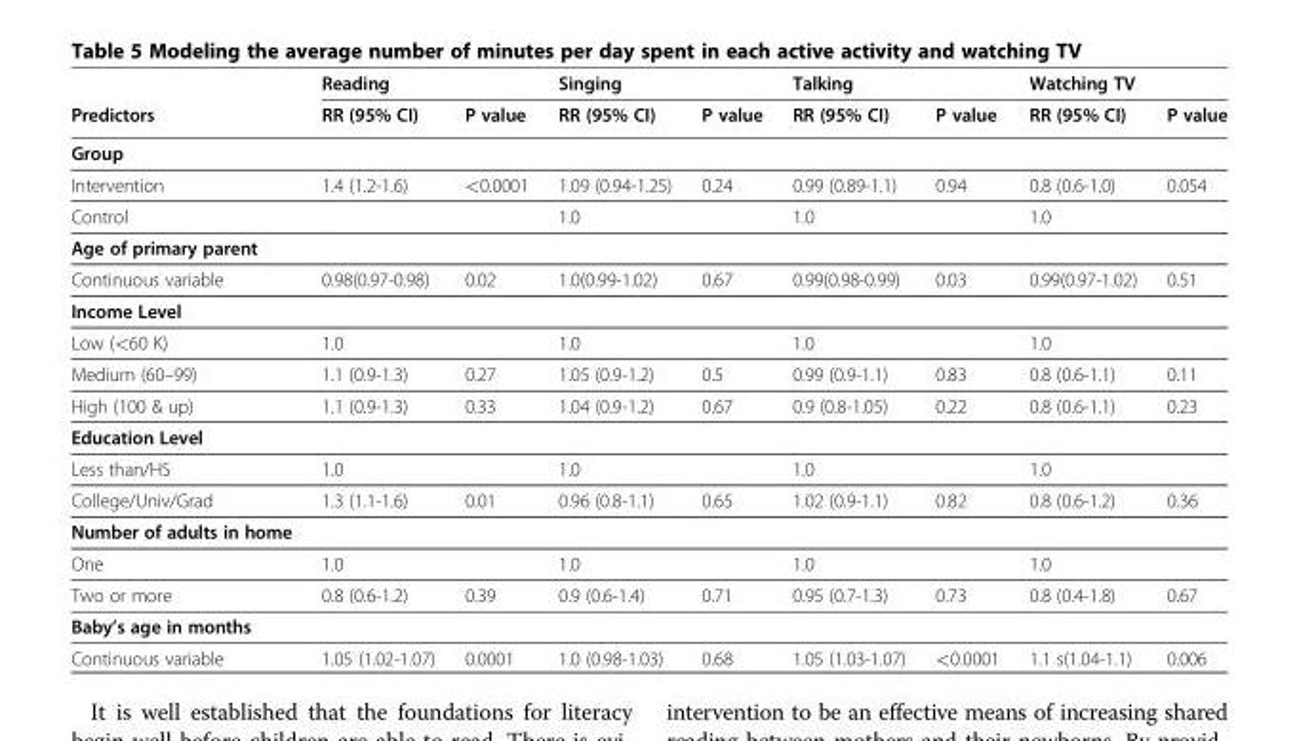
<table><thead><tr><td rowspan="2">Predictors</td><td colspan="2">Reading</td><td colspan="2">Singing</td><td colspan="2">Talking</td><td colspan="2">Watching TV</td></tr><tr><td>RR (95% CI)</td><td>P value</td><td>RR (95% CI)</td><td>P value</td><td>RR (95% CI)</td><td>P value</td><td>RR (95% CI)</td><td>P value</td></tr></thead><tbody><tr><td colspan="9">Group</td></tr><tr><td>Intervention</td><td>1.4 (1.2-1.6)</td><td>&lt;0.0001</td><td>1.09 (0.94-1.25)</td><td>0.24</td><td>0.99 (0.89-1.1)</td><td>0.94</td><td>0.8 (0.6-1.0)</td><td>0.054</td></tr><tr><td>Control</td><td></td><td></td><td>1.0</td><td></td><td>1.0</td><td></td><td>1.0</td><td></td></tr><tr><td colspan="9">Age of primary parent</td></tr><tr><td>Continuous variable</td><td>0.98(0.97-0.98)</td><td>0.02</td><td>1.0(0.99-1.02)</td><td>0.67</td><td>0.99(0.98-0.99)</td><td>0.03</td><td>0.99(0.97-1.02)</td><td>0.51</td></tr><tr><td colspan="9">Income Level</td></tr><tr><td>Low (&lt;60 K)</td><td>1.0</td><td></td><td>1.0</td><td></td><td>1.0</td><td></td><td>1.0</td><td></td></tr><tr><td>Medium (60–99)</td><td>1.1 (0.9-1.3)</td><td>0.27</td><td>1.05 (0.9-1.2)</td><td>0.5</td><td>0.99 (0.9-1.1)</td><td>0.83</td><td>0.8 (0.6-1.1)</td><td>0.11</td></tr><tr><td>High (100 &amp; up)</td><td>1.1 (0.9-1.3)</td><td>0.33</td><td>1.04 (0.9-1.2)</td><td>0.67</td><td>0.9 (0.8-1.05)</td><td>0.22</td><td>0.8 (0.6-1.1)</td><td>0.23</td></tr><tr><td colspan="9">Education Level</td></tr><tr><td>Less than/HS</td><td>1.0</td><td></td><td>1.0</td><td></td><td>1.0</td><td></td><td>1.0</td><td></td></tr><tr><td>College/Univ/Grad</td><td>1.3 (1.1-1.6)</td><td>0.01</td><td>0.96 (0.8-1.1)</td><td>0.65</td><td>1.02 (0.9-1.1)</td><td>0.82</td><td>0.8 (0.6-1.2)</td><td>0.36</td></tr><tr><td colspan="9">Number of adults in home</td></tr><tr><td>One</td><td>1.0</td><td></td><td>1.0</td><td></td><td>1.0</td><td></td><td>1.0</td><td></td></tr><tr><td>Two or more</td><td>0.8 (0.6-1.2)</td><td>0.39</td><td>0.9 (0.6-1.4)</td><td>0.71</td><td>0.95 (0.7-1.3)</td><td>0.73</td><td>0.8 (0.4-1.8)</td><td>0.67</td></tr><tr><td colspan="9">Baby’s age in months</td></tr><tr><td>Continuous variable</td><td>1.05 (1.02-1.07)</td><td>0.0001</td><td>1.0 (0.98-1.03)</td><td>0.68</td><td>1.05 (1.03-1.07)</td><td>&lt;0.0001</td><td>1.1 s(1.04-1.1)</td><td>0.006</td></tr></tbody></table>